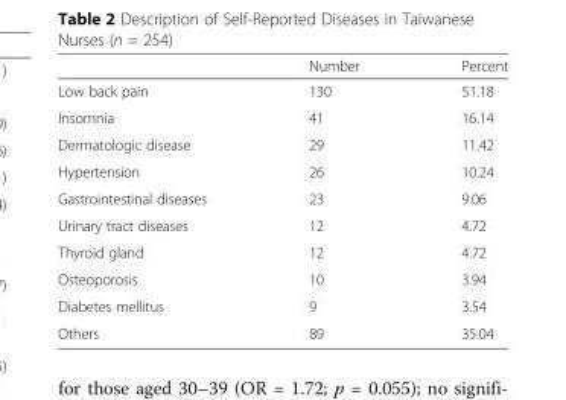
<table><thead><tr><td></td><td>Number</td><td>Percent</td></tr></thead><tbody><tr><td>Low back pain</td><td>130</td><td>51.18</td></tr><tr><td>Insomnia</td><td>41</td><td>16.14</td></tr><tr><td>Dermatologic disease</td><td>29</td><td>11.42</td></tr><tr><td>Hypertension</td><td>26</td><td>10.24</td></tr><tr><td>Gastrointestinal diseases</td><td>23</td><td>9.06</td></tr><tr><td>Urinary tract diseases</td><td>12</td><td>4.72</td></tr><tr><td>Thyroid gland</td><td>12</td><td>4.72</td></tr><tr><td>Osteoporosis</td><td>10</td><td>3.94</td></tr><tr><td>Diabetes mellitus</td><td>9</td><td>3.54</td></tr><tr><td>Others</td><td>89</td><td>35.04</td></tr></tbody></table>